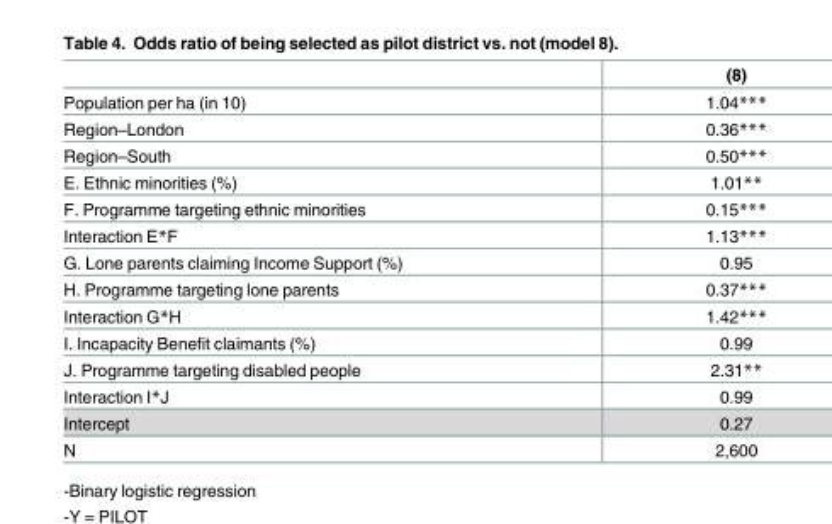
<table><thead><tr><td></td><td>(8)</td></tr></thead><tbody><tr><td>Population per ha (in 10)</td><td>1.04***</td></tr><tr><td>Region–London</td><td>0.36***</td></tr><tr><td>Region–South</td><td>0.50***</td></tr><tr><td>E. Ethnic minorities (%)</td><td>1.01**</td></tr><tr><td>F. Programme targeting ethnic minorities</td><td>0.15***</td></tr><tr><td>Interaction E*F</td><td>1.13***</td></tr><tr><td>G. Lone parents claiming Income Support (%)</td><td>0.95</td></tr><tr><td>H. Programme targeting lone parents</td><td>0.37***</td></tr><tr><td>Interaction G*H</td><td>1.42***</td></tr><tr><td>I. Incapacity Benefit claimants (%)</td><td>0.99</td></tr><tr><td>J. Programme targeting disabled people</td><td>2.31**</td></tr><tr><td>Interaction I*J</td><td>0.99</td></tr><tr><td>Intercept</td><td>0.27</td></tr><tr><td>N</td><td>2,600</td></tr></tbody></table>